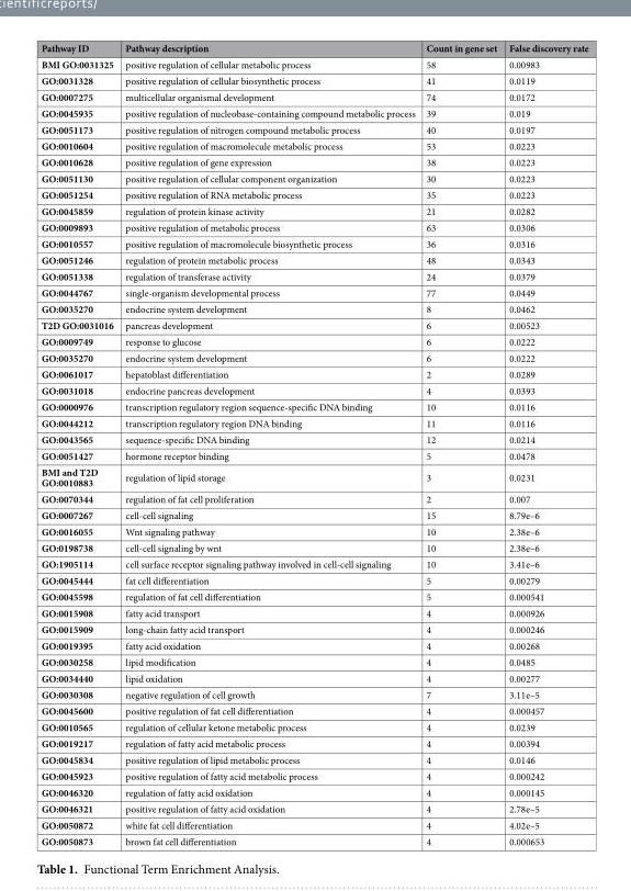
<table><thead><tr><td>Pathway ID</td><td>Pathway description</td><td>Count in gene set</td><td>False discovery rate</td></tr></thead><tbody><tr><td>BMI GO:0031325</td><td>positive regulation of cellular metabolic process</td><td>58</td><td>0.00983</td></tr><tr><td>GO:0031328</td><td>positive regulation of cellular biosynthetic process</td><td>41</td><td>0.0119</td></tr><tr><td>GO:0007275</td><td>multicellular organismal development</td><td>74</td><td>0.0172</td></tr><tr><td>GO:0045935</td><td>positive regulation of nucleobase-containing compound metabolic process</td><td>39</td><td>0.019</td></tr><tr><td>GO:0051173</td><td>positive regulation of nitrogen compound metabolic process</td><td>40</td><td>0.0197</td></tr><tr><td>GO:0010604</td><td>positive regulation of macromolecule metabolic process</td><td>53</td><td>0.0223</td></tr><tr><td>GO:0010628</td><td>positive regulation of gene expression</td><td>38</td><td>0.0223</td></tr><tr><td>GO:0051130</td><td>positive regulation of cellular component organization</td><td>30</td><td>0.0223</td></tr><tr><td>GO:0051254</td><td>positive regulation of RNA metabolic process</td><td>35</td><td>0.0223</td></tr><tr><td>GO:0045859</td><td>regulation of protein kinase activity</td><td>21</td><td>0.0282</td></tr><tr><td>GO:0009893</td><td>positive regulation of metabolic process</td><td>63</td><td>0.0306</td></tr><tr><td>GO:0010557</td><td>positive regulation of macromolecule biosynthetic process</td><td>36</td><td>0.0316</td></tr><tr><td>GO:0051246</td><td>regulation of protein metabolic process</td><td>48</td><td>0.0343</td></tr><tr><td>GO:0051338</td><td>regulation of transferase activity</td><td>24</td><td>0.0379</td></tr><tr><td>GO:0044767</td><td>single-organism developmental process</td><td>77</td><td>0.0449</td></tr><tr><td>GO:0035270</td><td>endocrine system development</td><td>8</td><td>0.0462</td></tr><tr><td>T2D GO:0031016</td><td>pancreas development</td><td>6</td><td>0.00523</td></tr><tr><td>GO:0009749</td><td>response to glucose</td><td>6</td><td>0.0222</td></tr><tr><td>GO:0035270</td><td>endocrine system development</td><td>6</td><td>0.0222</td></tr><tr><td>GO:0061017</td><td>hepatoblast differentiation</td><td>2</td><td>0.0289</td></tr><tr><td>GO:0031018</td><td>endocrine pancreas development</td><td>4</td><td>0.0393</td></tr><tr><td>GO:0000976</td><td>transcription regulatory region sequence-specific DNA binding</td><td>10</td><td>0.0116</td></tr><tr><td>GO:0044212</td><td>transcription regulatory region DNA binding</td><td>11</td><td>0.0116</td></tr><tr><td>GO:0043565</td><td>sequence-specific DNA binding</td><td>12</td><td>0.0214</td></tr><tr><td>GO:0051427</td><td>hormone receptor binding</td><td>5</td><td>0.0478</td></tr><tr><td>BMI and T2D GO:0010883</td><td>regulation of lipid storage</td><td>3</td><td>0.0231</td></tr><tr><td>GO:0070344</td><td>regulation of fat cell proliferation</td><td>2</td><td>0.007</td></tr><tr><td>GO:0007267</td><td>cell-cell signaling</td><td>15</td><td>8.79e–6</td></tr><tr><td>GO:0016055</td><td>Wnt signaling pathway</td><td>10</td><td>2.38e–6</td></tr><tr><td>GO:0198738</td><td>cell-cell signaling by wnt</td><td>10</td><td>2.38e–6</td></tr><tr><td>GO:1905114</td><td>cell surface receptor signaling pathway involved in cell-cell signaling</td><td>10</td><td>3.41e–6</td></tr><tr><td>GO:0045444</td><td>fat cell differentiation</td><td>5</td><td>0.00279</td></tr><tr><td>GO:0045598</td><td>regulation of fat cell differentiation</td><td>5</td><td>0.000541</td></tr><tr><td>GO:0015908</td><td>fatty acid transport</td><td>4</td><td>0.000926</td></tr><tr><td>GO:0015909</td><td>long-chain fatty acid transport</td><td>4</td><td>0.000246</td></tr><tr><td>GO:0019395</td><td>fatty acid oxidation</td><td>4</td><td>0.00268</td></tr><tr><td>GO:0030258</td><td>lipid modification</td><td>4</td><td>0.0485</td></tr><tr><td>GO:0034440</td><td>lipid oxidation</td><td>4</td><td>0.00277</td></tr><tr><td>GO:0030308</td><td>negative regulation of cell growth</td><td>7</td><td>3.11e–5</td></tr><tr><td>GO:0045600</td><td>positive regulation of fat cell differentiation</td><td>4</td><td>0.000457</td></tr><tr><td>GO:0010565</td><td>regulation of cellular ketone metabolic process</td><td>4</td><td>0.0239</td></tr><tr><td>GO:0019217</td><td>regulation of fatty acid metabolic process</td><td>4</td><td>0.00394</td></tr><tr><td>GO:0045834</td><td>positive regulation of lipid metabolic process</td><td>4</td><td>0.0146</td></tr><tr><td>GO:0045923</td><td>positive regulation of fatty acid metabolic process</td><td>4</td><td>0.000242</td></tr><tr><td>GO:0046320</td><td>regulation of fatty acid oxidation</td><td>4</td><td>0.000145</td></tr><tr><td>GO:0046321</td><td>positive regulation of fatty acid oxidation</td><td>4</td><td>2.78e–5</td></tr><tr><td>GO:0050872</td><td>white fat cell differentiation</td><td>4</td><td>4.02e–5</td></tr><tr><td>GO:0050873</td><td>brown fat cell differentiation</td><td>4</td><td>0.000653</td></tr></tbody></table>